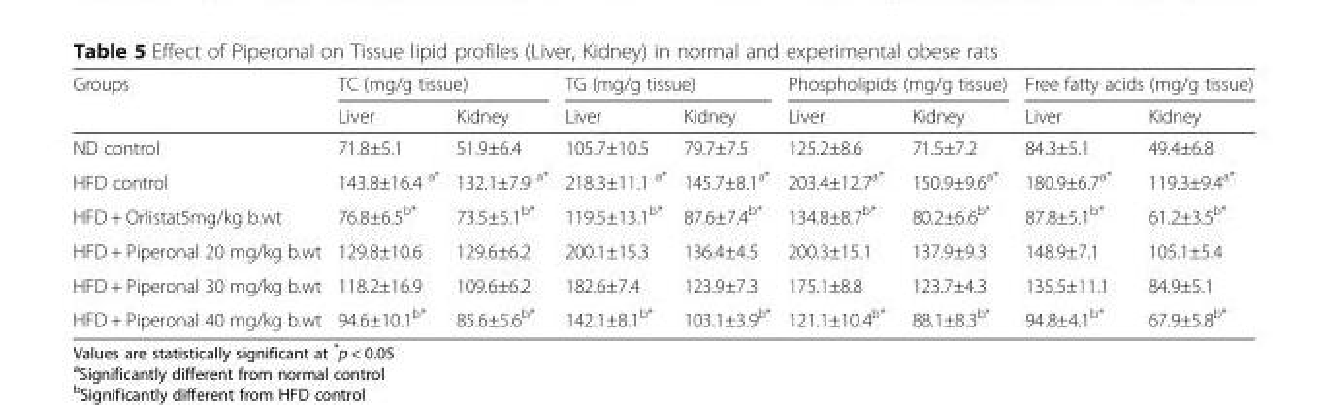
<table><thead><tr><td rowspan="2">Groups</td><td colspan="2">TC (mg/g tissue)</td><td colspan="2">TG (mg/g tissue)</td><td colspan="2">Phospholipids (mg/g tissue)</td><td colspan="2">Free fatty acids (mg/g tissue)</td></tr><tr><td>Liver</td><td>Kidney</td><td>Liver</td><td>Kidney</td><td>Liver</td><td>Kidney</td><td>Liver</td><td>Kidney</td></tr></thead><tbody><tr><td>ND control</td><td>71.8±5.1</td><td>51.9±6.4</td><td>105.7±10.5</td><td>79.7±7.5</td><td>125.2±8.6</td><td>71.5±7.2</td><td>84.3±5.1</td><td>49.4±6.8</td></tr><tr><td>HFD control</td><td>143.8±16.4 <sup>a*</sup></td><td>132.1±7.9 <sup>a*</sup></td><td>218.3±11.1 <sup>a*</sup></td><td>145.7±8.1<sup>a*</sup></td><td>203.4±12.7<sup>a*</sup></td><td>150.9±9.6<sup>a*</sup></td><td>180.9±6.7<sup>a*</sup></td><td>119.3±9.4<sup>a*</sup></td></tr><tr><td>HFD + Orlistat5mg/kg b.wt</td><td>76.8±6.5<sup>b*</sup></td><td>73.5±5.1<sup>b*</sup></td><td>119.5±13.1<sup>b*</sup></td><td>87.6±7.4<sup>b*</sup></td><td>134.8±8.7<sup>b*</sup></td><td>80.2±6.6<sup>b*</sup></td><td>87.8±5.1<sup>b*</sup></td><td>61.2±3.5<sup>b*</sup></td></tr><tr><td>HFD + Piperonal 20 mg/kg b.wt</td><td>129.8±10.6</td><td>129.6±6.2</td><td>200.1±15.3</td><td>136.4±4.5</td><td>200.3±15.1</td><td>137.9±9.3</td><td>148.9±7.1</td><td>105.1±5.4</td></tr><tr><td>HFD + Piperonal 30 mg/kg b.wt</td><td>118.2±16.9</td><td>109.6±6.2</td><td>182.6±7.4</td><td>123.9±7.3</td><td>175.1±8.8</td><td>123.7±4.3</td><td>135.5±11.1</td><td>84.9±5.1</td></tr><tr><td>HFD + Piperonal 40 mg/kg b.wt</td><td>94.6±10.1<sup>b*</sup></td><td>85.6±5.6<sup>b*</sup></td><td>142.1±8.1<sup>b*</sup></td><td>103.1±3.9<sup>b*</sup></td><td>121.1±10.4<sup>b*</sup></td><td>88.1±8.3<sup>b*</sup></td><td>94.8±4.1<sup>b*</sup></td><td>67.9±5.8<sup>b*</sup></td></tr></tbody></table>